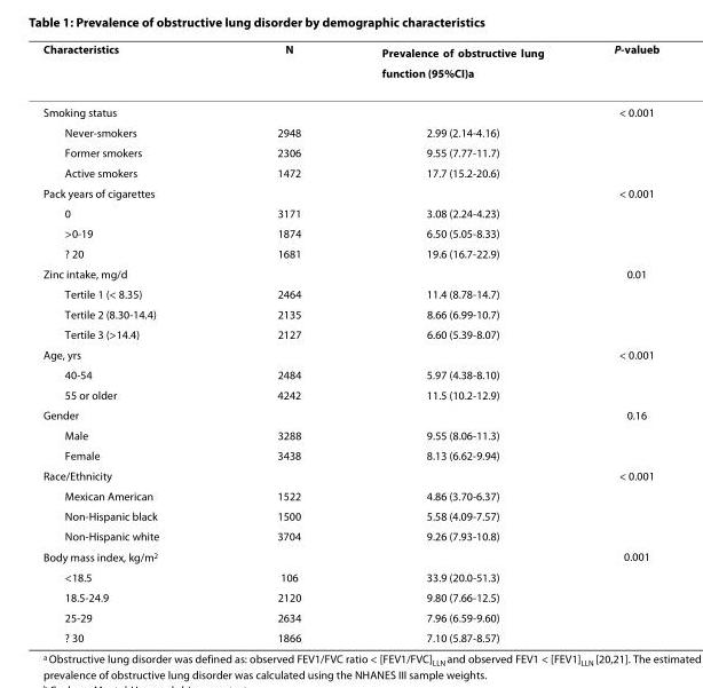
<table><thead><tr><td>Characteristics</td><td>N</td><td>Prevalence of obstructive lung function (95%CI)<sup>a</sup></td><td>P-value<sup>b</sup></td></tr></thead><tbody><tr><td>Smoking status</td><td></td><td></td><td>&lt; 0.001</td></tr><tr><td>Never-smokers</td><td>2948</td><td>2.99 (2.14-4.16)</td><td></td></tr><tr><td>Former smokers</td><td>2306</td><td>9.55 (7.77-11.7)</td><td></td></tr><tr><td>Active smokers</td><td>1472</td><td>17.7 (15.2-20.6)</td><td></td></tr><tr><td>Pack years of cigarettes</td><td></td><td></td><td>&lt; 0.001</td></tr><tr><td>0</td><td>3171</td><td>3.08 (2.24-4.23)</td><td></td></tr><tr><td>&gt;0-19</td><td>1874</td><td>6.50 (5.05-8.33)</td><td></td></tr><tr><td>≥ 20</td><td>1681</td><td>19.6 (16.7-22.9)</td><td></td></tr><tr><td>Zinc intake, mg/d</td><td></td><td></td><td>0.01</td></tr><tr><td>Tertile 1 (&lt; 8.35)</td><td>2464</td><td>11.4 (8.78-14.7)</td><td></td></tr><tr><td>Tertile 2 (8.30-14.4)</td><td>2135</td><td>8.66 (6.99-10.7)</td><td></td></tr><tr><td>Tertile 3 (&gt;14.4)</td><td>2127</td><td>6.60 (5.39-8.07)</td><td></td></tr><tr><td>Age, yrs</td><td></td><td></td><td>&lt; 0.001</td></tr><tr><td>40-54</td><td>2484</td><td>5.97 (4.38-8.10)</td><td></td></tr><tr><td>55 or older</td><td>4242</td><td>11.5 (10.2-12.9)</td><td></td></tr><tr><td>Gender</td><td></td><td></td><td>0.16</td></tr><tr><td>Male</td><td>3288</td><td>9.55 (8.06-11.3)</td><td></td></tr><tr><td>Female</td><td>3438</td><td>8.13 (6.62-9.94)</td><td></td></tr><tr><td>Race/Ethnicity</td><td></td><td></td><td>&lt; 0.001</td></tr><tr><td>Mexican American</td><td>1522</td><td>4.86 (3.70-6.37)</td><td></td></tr><tr><td>Non-Hispanic black</td><td>1500</td><td>5.58 (4.09-7.57)</td><td></td></tr><tr><td>Non-Hispanic white</td><td>3704</td><td>9.26 (7.93-10.8)</td><td></td></tr><tr><td>Body mass index, kg/m<sup>2</sup></td><td></td><td></td><td>0.001</td></tr><tr><td>&lt;18.5</td><td>106</td><td>33.9 (20.0-51.3)</td><td></td></tr><tr><td>18.5-24.9</td><td>2120</td><td>9.80 (7.66-12.5)</td><td></td></tr><tr><td>25-29</td><td>2634</td><td>7.96 (6.59-9.60)</td><td></td></tr><tr><td>≥ 30</td><td>1866</td><td>7.10 (5.87-8.57)</td><td></td></tr></tbody></table>